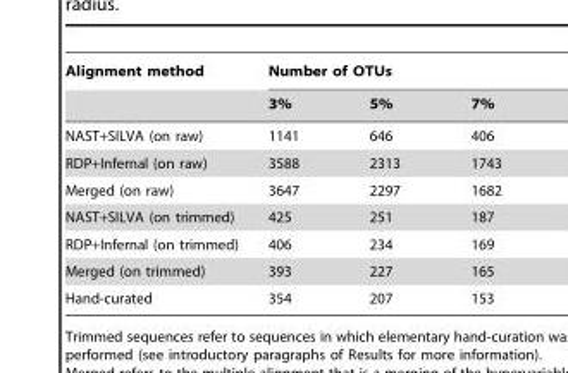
<table><thead><tr><td rowspan="2">Alignment method</td><td colspan="3">Number of OTUs</td></tr><tr><td>3%</td><td>5%</td><td>7%</td></tr></thead><tbody><tr><td>NAST+SILVA (on raw)</td><td>1141</td><td>646</td><td>406</td></tr><tr><td>RDP+Infernal (on raw)</td><td>3588</td><td>2313</td><td>1743</td></tr><tr><td>Merged (on raw)</td><td>3647</td><td>2297</td><td>1682</td></tr><tr><td>NAST+SILVA (on trimmed)</td><td>425</td><td>251</td><td>187</td></tr><tr><td>RDP+Infernal (on trimmed)</td><td>406</td><td>234</td><td>169</td></tr><tr><td>Merged (on trimmed)</td><td>393</td><td>227</td><td>165</td></tr><tr><td>Hand-curated</td><td>354</td><td>207</td><td>153</td></tr></tbody></table>